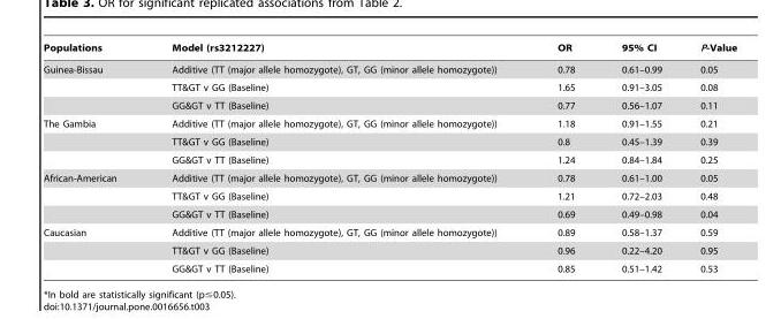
<table><thead><tr><td>Populations</td><td>Model (rs3212227)</td><td>OR</td><td>95% CI</td><td>P-Value</td></tr></thead><tbody><tr><td rowspan="3">Guinea-Bissau</td><td>Additive (TT (major allele homozygote), GT, GG (minor allele homozygote))</td><td>0.78</td><td>0.61–0.99</td><td>0.05</td></tr><tr><td>TT&amp;GT v GG (Baseline)</td><td>1.65</td><td>0.91–3.05</td><td>0.08</td></tr><tr><td>GG&amp;GT v TT (Baseline)</td><td>0.77</td><td>0.56–1.07</td><td>0.11</td></tr><tr><td rowspan="3">The Gambia</td><td>Additive (TT (major allele homozygote), GT, GG (minor allele homozygote))</td><td>1.18</td><td>0.91–1.55</td><td>0.21</td></tr><tr><td>TT&amp;GT v GG (Baseline)</td><td>0.8</td><td>0.45–1.39</td><td>0.39</td></tr><tr><td>GG&amp;GT v TT (Baseline)</td><td>1.24</td><td>0.84–1.84</td><td>0.25</td></tr><tr><td rowspan="3">African-American</td><td>Additive (TT (major allele homozygote), GT, GG (minor allele homozygote))</td><td>0.78</td><td>0.61–1.00</td><td>0.05</td></tr><tr><td>TT&amp;GT v GG (Baseline)</td><td>1.21</td><td>0.72–2.03</td><td>0.48</td></tr><tr><td>GG&amp;GT v TT (Baseline)</td><td>0.69</td><td>0.49–0.98</td><td>0.04</td></tr><tr><td rowspan="3">Caucasian</td><td>Additive (TT (major allele homozygote), GT, GG (minor allele homozygote))</td><td>0.89</td><td>0.58–1.37</td><td>0.59</td></tr><tr><td>TT&amp;GT v GG (Baseline)</td><td>0.96</td><td>0.22–4.20</td><td>0.95</td></tr><tr><td>GG&amp;GT v TT (Baseline)</td><td>0.85</td><td>0.51–1.42</td><td>0.53</td></tr></tbody></table>